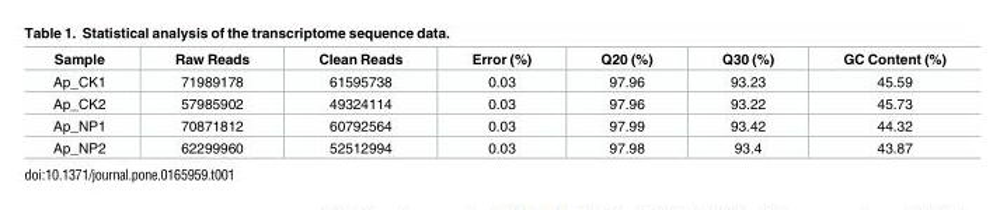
<table><thead><tr><td>Sample</td><td>Raw Reads</td><td>Clean Reads</td><td>Error (%)</td><td>Q20 (%)</td><td>Q30 (%)</td><td>GC Content (%)</td></tr></thead><tbody><tr><td>Ap_CK1</td><td>71989178</td><td>61595738</td><td>0.03</td><td>97.96</td><td>93.23</td><td>45.59</td></tr><tr><td>Ap_CK2</td><td>57985902</td><td>49324114</td><td>0.03</td><td>97.96</td><td>93.22</td><td>45.73</td></tr><tr><td>Ap_NP1</td><td>70871812</td><td>60792564</td><td>0.03</td><td>97.99</td><td>93.42</td><td>44.32</td></tr><tr><td>Ap_NP2</td><td>62299960</td><td>52512994</td><td>0.03</td><td>97.98</td><td>93.4</td><td>43.87</td></tr></tbody></table>